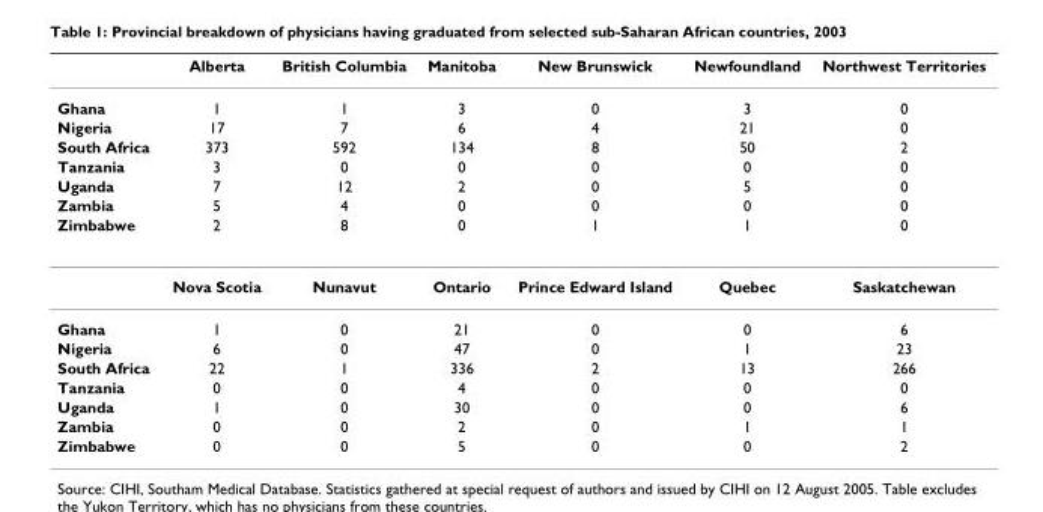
<table><thead><tr><td></td><td>Alberta</td><td>British Columbia</td><td>Manitoba</td><td>New Brunswick</td><td>Newfoundland</td><td>Northwest Territories</td></tr></thead><tbody><tr><td>Ghana</td><td>1</td><td>1</td><td>3</td><td>0</td><td>3</td><td>0</td></tr><tr><td>Nigeria</td><td>17</td><td>7</td><td>6</td><td>4</td><td>21</td><td>0</td></tr><tr><td>South Africa</td><td>373</td><td>592</td><td>134</td><td>8</td><td>50</td><td>2</td></tr><tr><td>Tanzania</td><td>3</td><td>0</td><td>0</td><td>0</td><td>0</td><td>0</td></tr><tr><td>Uganda</td><td>7</td><td>12</td><td>2</td><td>0</td><td>5</td><td>0</td></tr><tr><td>Zambia</td><td>5</td><td>4</td><td>0</td><td>0</td><td>0</td><td>0</td></tr><tr><td rowspan="2">Zimbabwe</td><td>2</td><td>8</td><td>0</td><td>1</td><td>1</td><td>0</td></tr><tr><td>Nova Scotia</td><td>Nunavut</td><td>Ontario</td><td>Prince Edward Island</td><td>Quebec</td><td>Saskatchewan</td></tr><tr><td>Ghana</td><td>1</td><td>0</td><td>21</td><td>0</td><td>0</td><td>6</td></tr><tr><td>Nigeria</td><td>6</td><td>0</td><td>47</td><td>0</td><td>1</td><td>23</td></tr><tr><td>South Africa</td><td>22</td><td>1</td><td>336</td><td>2</td><td>13</td><td>266</td></tr><tr><td>Tanzania</td><td>0</td><td>0</td><td>4</td><td>0</td><td>0</td><td>0</td></tr><tr><td>Uganda</td><td>1</td><td>0</td><td>30</td><td>0</td><td>0</td><td>6</td></tr><tr><td>Zambia</td><td>0</td><td>0</td><td>2</td><td>0</td><td>1</td><td>1</td></tr><tr><td>Zimbabwe</td><td>0</td><td>0</td><td>5</td><td>0</td><td>0</td><td>2</td></tr></tbody></table>